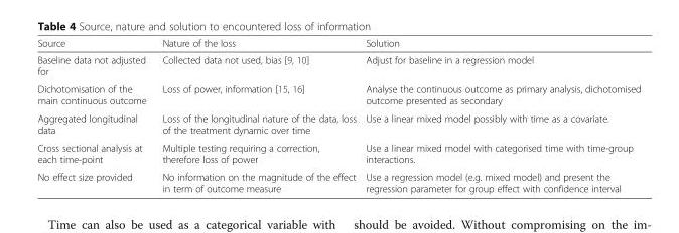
<table><thead><tr><td>Source</td><td>Nature of the loss</td><td>Solution</td></tr></thead><tbody><tr><td>Baseline data not adjusted for</td><td>Collected data not used, bias [9, 10]</td><td>Adjust for baseline in a regression model</td></tr><tr><td>Dichotomisation of the main continuous outcome</td><td>Loss of power, information [15, 16]</td><td>Analyse the continuous outcome as primary analysis, dichotomised outcome presented as secondary</td></tr><tr><td>Aggregated longitudinal data</td><td>Loss of the longitudinal nature of the data, loss of the treatment dynamic over time</td><td>Use a linear mixed model possibly with time as a covariate.</td></tr><tr><td>Cross sectional analysis at each time-point</td><td>Multiple testing requiring a correction, therefore loss of power</td><td>Use a linear mixed model with categorised time with time-group interactions.</td></tr><tr><td>No effect size provided</td><td>No information on the magnitude of the effect in term of outcome measure</td><td>Use a regression model (e.g. mixed model) and present the regression parameter for group effect with confidence interval</td></tr></tbody></table>